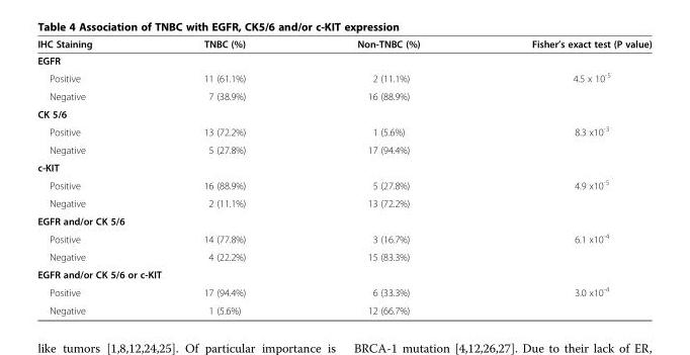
<table><thead><tr><td>IHC Staining</td><td>TNBC (%)</td><td>Non-TNBC (%)</td><td>Fisher’s exact test (P value)</td></tr></thead><tbody><tr><td colspan="4">EGFR</td></tr><tr><td>Positive</td><td>11 (61.1%)</td><td>2 (11.1%)</td><td rowspan="2">4.5 x 10<sup>-5</sup></td></tr><tr><td>Negative</td><td>7 (38.9%)</td><td>16 (88.9%)</td></tr><tr><td colspan="4">CK 5/6</td></tr><tr><td>Positive</td><td>13 (72.2%)</td><td>1 (5.6%)</td><td rowspan="2">8.3 x10<sup>-3</sup></td></tr><tr><td>Negative</td><td>5 (27.8%)</td><td>17 (94.4%)</td></tr><tr><td colspan="4">c-KIT</td></tr><tr><td>Positive</td><td>16 (88.9%)</td><td>5 (27.8%)</td><td rowspan="2">4.9 x10<sup>-5</sup></td></tr><tr><td>Negative</td><td>2 (11.1%)</td><td>13 (72.2%)</td></tr><tr><td colspan="4">EGFR and/or CK 5/6</td></tr><tr><td>Positive</td><td>14 (77.8%)</td><td>3 (16.7%)</td><td rowspan="2">6.1 x10<sup>-4</sup></td></tr><tr><td>Negative</td><td>4 (22.2%)</td><td>15 (83.3%)</td></tr><tr><td colspan="4">EGFR and/or CK 5/6 or c-KIT</td></tr><tr><td>Positive</td><td>17 (94.4%)</td><td>6 (33.3%)</td><td>3.0 x10<sup>-4</sup></td></tr><tr><td>Negative</td><td>1 (5.6%)</td><td>12 (66.7%)</td><td></td></tr></tbody></table>